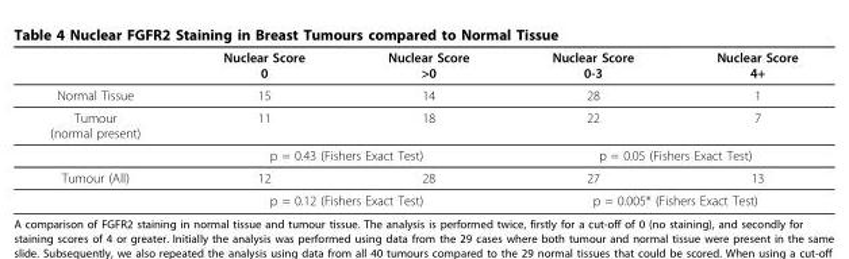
<table><thead><tr><td></td><td>Nuclear Score 0</td><td>Nuclear Score &gt;0</td><td>Nuclear Score 0-3</td><td>Nuclear Score 4+</td></tr></thead><tbody><tr><td>Normal Tissue</td><td>15</td><td>14</td><td>28</td><td>1</td></tr><tr><td rowspan="2">Tumour (normal present)</td><td>11</td><td>18</td><td>22</td><td>7</td></tr><tr><td colspan="2">p = 0.43 (Fishers Exact Test)</td><td colspan="2">p = 0.05 (Fishers Exact Test)</td></tr><tr><td rowspan="2">Tumour (All)</td><td>12</td><td>28</td><td>27</td><td>13</td></tr><tr><td colspan="2">p = 0.12 (Fishers Exact Test)</td><td colspan="2">p = 0.005* (Fishers Exact Test)</td></tr></tbody></table>